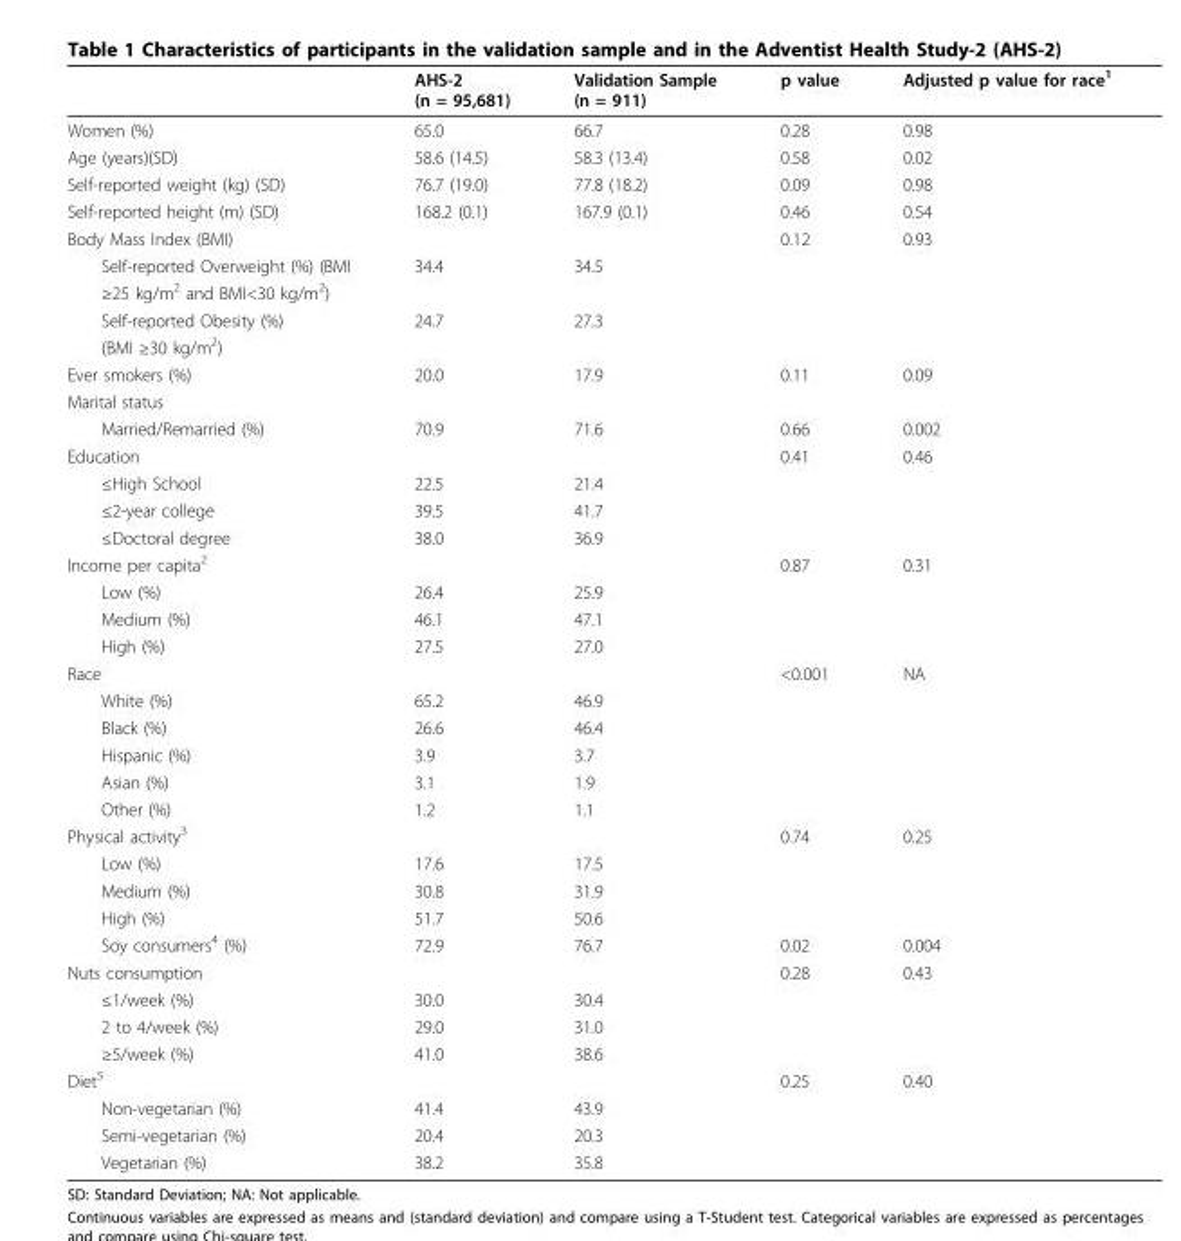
<table><thead><tr><td></td><td>AHS-2 (n = 95,681)</td><td>Validation Sample (n = 911)</td><td>p value</td><td>Adjusted p value for race<sup>1</sup></td></tr></thead><tbody><tr><td>Women (%)</td><td>65.0</td><td>66.7</td><td>0.28</td><td>0.98</td></tr><tr><td>Age (years)(SD)</td><td>58.6 (14.5)</td><td>58.3 (13.4)</td><td>0.58</td><td>0.02</td></tr><tr><td>Self-reported weight (kg) (SD)</td><td>76.7 (19.0)</td><td>77.8 (18.2)</td><td>0.09</td><td>0.98</td></tr><tr><td>Self-reported height (m) (SD)</td><td>168.2 (0.1)</td><td>167.9 (0.1)</td><td>0.46</td><td>0.54</td></tr><tr><td>Body Mass Index (BMI)</td><td></td><td></td><td>0.12</td><td>0.93</td></tr><tr><td>Self-reported Overweight (%) (BMI</td><td>34.4</td><td>34.5</td><td></td><td></td></tr><tr><td colspan="5">≥25 kg/m<sup>2</sup> and BMI&lt;30 kg/m<sup>2</sup>)</td></tr><tr><td>Self-reported Obesity (%)</td><td>24.7</td><td>27.3</td><td></td><td></td></tr><tr><td colspan="5">(BMI ≥30 kg/m<sup>2</sup>)</td></tr><tr><td>Ever smokers (%)</td><td>20.0</td><td>17.9</td><td>0.11</td><td>0.09</td></tr><tr><td colspan="5">Marital status</td></tr><tr><td>Married/Remarried (%)</td><td>70.9</td><td>71.6</td><td>0.66</td><td>0.002</td></tr><tr><td>Education</td><td></td><td></td><td>0.41</td><td>0.46</td></tr><tr><td>≤High School</td><td>22.5</td><td>21.4</td><td></td><td></td></tr><tr><td>≤2-year college</td><td>39.5</td><td>41.7</td><td></td><td></td></tr><tr><td>≤Doctoral degree</td><td>38.0</td><td>36.9</td><td></td><td></td></tr><tr><td>Income per capita<sup>2</sup></td><td></td><td></td><td>0.87</td><td>0.31</td></tr><tr><td>Low (%)</td><td>26.4</td><td>25.9</td><td></td><td></td></tr><tr><td>Medium (%)</td><td>46.1</td><td>47.1</td><td></td><td></td></tr><tr><td>High (%)</td><td>27.5</td><td>27.0</td><td></td><td></td></tr><tr><td>Race</td><td></td><td></td><td>&lt;0.001</td><td>NA</td></tr><tr><td>White (%)</td><td>65.2</td><td>46.9</td><td></td><td></td></tr><tr><td>Black (%)</td><td>26.6</td><td>46.4</td><td></td><td></td></tr><tr><td>Hispanic (%)</td><td>3.9</td><td>3.7</td><td></td><td></td></tr><tr><td>Asian (%)</td><td>3.1</td><td>1.9</td><td></td><td></td></tr><tr><td>Other (%)</td><td>1.2</td><td>1.1</td><td></td><td></td></tr><tr><td>Physical activity<sup>3</sup></td><td></td><td></td><td>0.74</td><td>0.25</td></tr><tr><td>Low (%)</td><td>17.6</td><td>17.5</td><td></td><td></td></tr><tr><td>Medium (%)</td><td>30.8</td><td>31.9</td><td></td><td></td></tr><tr><td>High (%)</td><td>51.7</td><td>50.6</td><td></td><td></td></tr><tr><td>Soy consumers<sup>4</sup> (%)</td><td>72.9</td><td>76.7</td><td>0.02</td><td>0.004</td></tr><tr><td>Nuts consumption</td><td></td><td></td><td>0.28</td><td>0.43</td></tr><tr><td>≤1/week (%)</td><td>30.0</td><td>30.4</td><td></td><td></td></tr><tr><td>2 to 4/week (%)</td><td>29.0</td><td>31.0</td><td></td><td></td></tr><tr><td>≥5/week (%)</td><td>41.0</td><td>38.6</td><td></td><td></td></tr><tr><td>Diet<sup>5</sup></td><td></td><td></td><td>0.25</td><td>0.40</td></tr><tr><td>Non-vegetarian (%)</td><td>41.4</td><td>43.9</td><td></td><td></td></tr><tr><td>Semi-vegetarian (%)</td><td>20.4</td><td>20.3</td><td></td><td></td></tr><tr><td>Vegetarian (%)</td><td>38.2</td><td>35.8</td><td></td><td></td></tr></tbody></table>